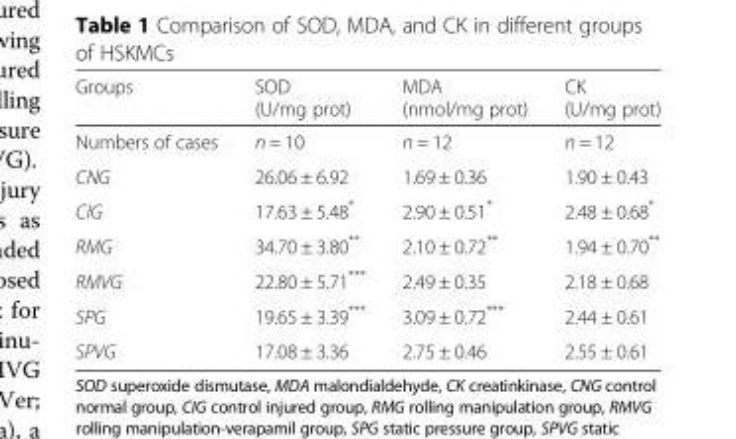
<table><thead><tr><td>Groups</td><td>SOD (U/mg prot)</td><td>MDA (nmol/mg prot)</td><td>CK (U/mg prot)</td></tr></thead><tbody><tr><td>Numbers of cases</td><td>n = 10</td><td>n = 12</td><td>n = 12</td></tr><tr><td>CNG</td><td>26.06 ± 6.92</td><td>1.69 ± 0.36</td><td>1.90 ± 0.43</td></tr><tr><td>CIG</td><td>17.63 ± 5.48*</td><td>2.90 ± 0.51*</td><td>2.48 ± 0.68*</td></tr><tr><td>RMG</td><td>34.70 ± 3.80**</td><td>2.10 ± 0.72**</td><td>1.94 ± 0.70**</td></tr><tr><td>RMVG</td><td>22.80 ± 5.71***</td><td>2.49 ± 0.35</td><td>2.18 ± 0.68</td></tr><tr><td>SPG</td><td>19.65 ± 3.39***</td><td>3.09 ± 0.72***</td><td>2.44 ± 0.61</td></tr><tr><td>SPVG</td><td>17.08 ± 3.36</td><td>2.75 ± 0.46</td><td>2.55 ± 0.61</td></tr></tbody></table>